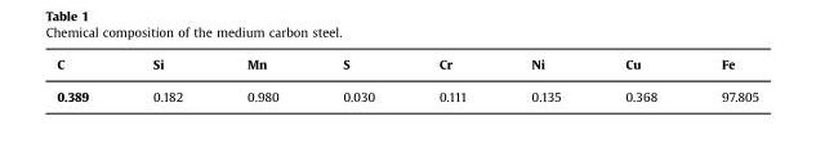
<table><thead><tr><td>C</td><td>Si</td><td>Mn</td><td>S</td><td>Cr</td><td>Ni</td><td>Cu</td><td>Fe</td></tr></thead><tbody><tr><td>0.389</td><td>0.182</td><td>0.980</td><td>0.030</td><td>0.111</td><td>0.135</td><td>0.368</td><td>97.805</td></tr></tbody></table>